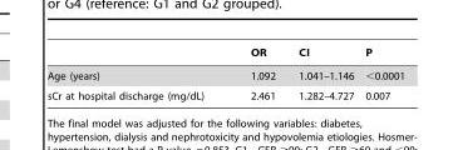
<table><thead><tr><td></td><td>OR</td><td>CI</td><td>P</td></tr></thead><tbody><tr><td>Age (years)</td><td>1.092</td><td>1.041–1.146</td><td>&lt;0.0001</td></tr><tr><td>sCr at hospital discharge (mg/dL)</td><td>2.461</td><td>1.282–4.727</td><td>0.007</td></tr></tbody></table>